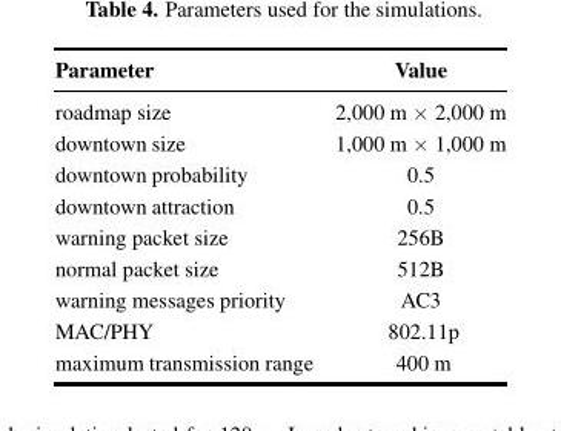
<table><thead><tr><td>Parameter</td><td>Value</td></tr></thead><tbody><tr><td>roadmap size</td><td>2,000 m × 2,000 m</td></tr><tr><td>downtown size</td><td>1,000 m × 1,000 m</td></tr><tr><td>downtown probability</td><td>0.5</td></tr><tr><td>downtown attraction</td><td>0.5</td></tr><tr><td>warning packet size</td><td>256B</td></tr><tr><td>normal packet size</td><td>512B</td></tr><tr><td>warning messages priority</td><td>AC3</td></tr><tr><td>MAC/PHY</td><td>802.11p</td></tr><tr><td>maximum transmission range</td><td>400 m</td></tr></tbody></table>